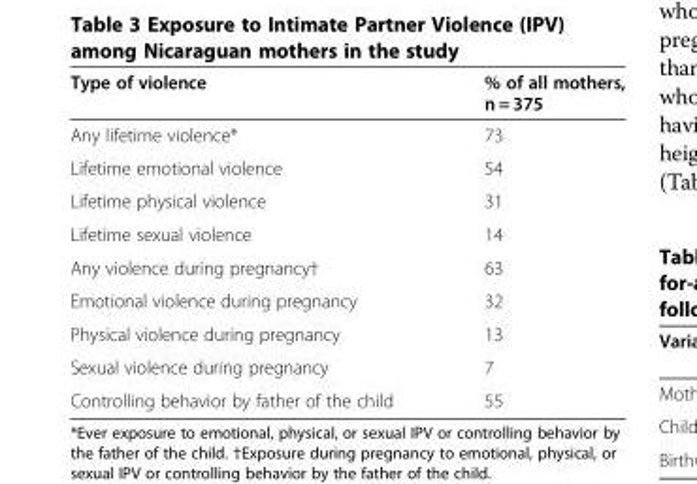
<table><thead><tr><td>Type of violence</td><td>% of all mothers, n = 375</td></tr></thead><tbody><tr><td>Any lifetime violence*</td><td>73</td></tr><tr><td>Lifetime emotional violence</td><td>54</td></tr><tr><td>Lifetime physical violence</td><td>31</td></tr><tr><td>Lifetime sexual violence</td><td>14</td></tr><tr><td>Any violence during pregnancy†</td><td>63</td></tr><tr><td>Emotional violence during pregnancy</td><td>32</td></tr><tr><td>Physical violence during pregnancy</td><td>13</td></tr><tr><td>Sexual violence during pregnancy</td><td>7</td></tr><tr><td>Controlling behavior by father of the child</td><td>55</td></tr></tbody></table>